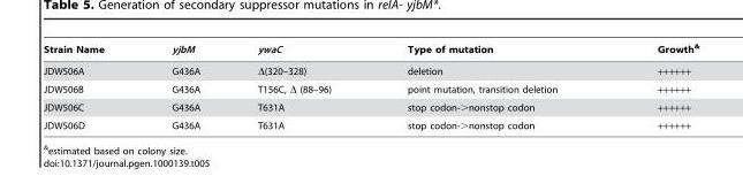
<table><thead><tr><td>Strain Name</td><td>yjbM</td><td>ywaC</td><td>Type of mutation</td><td>Growth&amp;</td></tr></thead><tbody><tr><td>JDW506A</td><td>G436A</td><td>Δ(320–328)</td><td>deletion</td><td>++++++</td></tr><tr><td>JDW506B</td><td>G436A</td><td>T156C, Δ (88–96)</td><td>point mutation, transition deletion</td><td>++++++</td></tr><tr><td>JDW506C</td><td>G436A</td><td>T631A</td><td>stop codon-&gt;nonstop codon</td><td>++++++</td></tr><tr><td>JDW506D</td><td>G436A</td><td>T631A</td><td>stop codon-&gt;nonstop codon</td><td>++++++</td></tr></tbody></table>